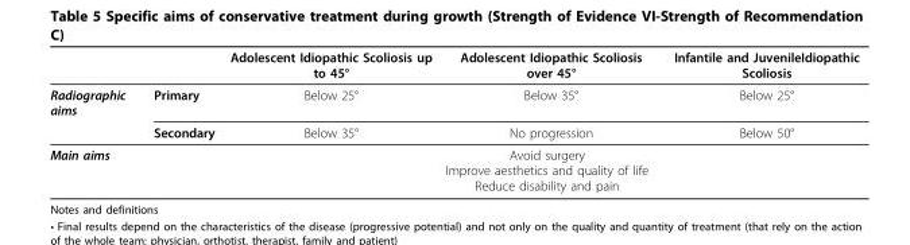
<table><thead><tr><td></td><td></td><td>Adolescent Idiopathic Scoliosis up to 45°</td><td>Adolescent Idiopathic Scoliosis over 45°</td><td>Infantile and JuvenileIdiopathic Scoliosis</td></tr></thead><tbody><tr><td rowspan="2">Radiographic aims</td><td>Primary</td><td>Below 25°</td><td>Below 35°</td><td>Below 25°</td></tr><tr><td>Secondary</td><td>Below 35°</td><td>No progression</td><td>Below 50°</td></tr><tr><td>Main aims</td><td></td><td colspan="3">Avoid surgery Improve aesthetics and quality of life Reduce disability and pain</td></tr></tbody></table>